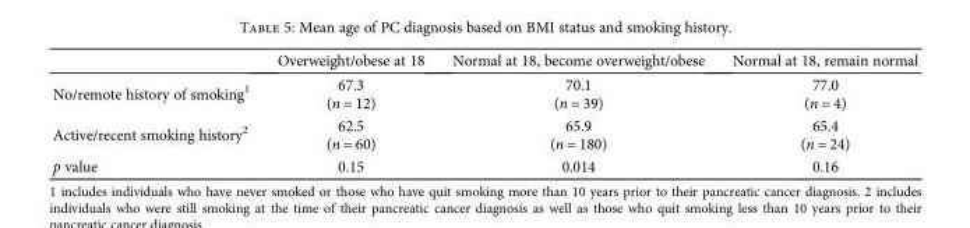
<table><thead><tr><td></td><td>Overweight/obese at 18</td><td>Normal at 18, become overweight/obese</td><td>Normal at 18, remain normal</td></tr></thead><tbody><tr><td>No/remote history of smoking<sup>1</sup></td><td>67.3 (n = 12)</td><td>70.1 (n = 39)</td><td>77.0 (n = 4)</td></tr><tr><td>Active/recent smoking history<sup>2</sup></td><td>62.5 (n = 60)</td><td>65.9 (n = 180)</td><td>65.4 (n = 24)</td></tr><tr><td>p value</td><td>0.15</td><td>0.014</td><td>0.16</td></tr></tbody></table>